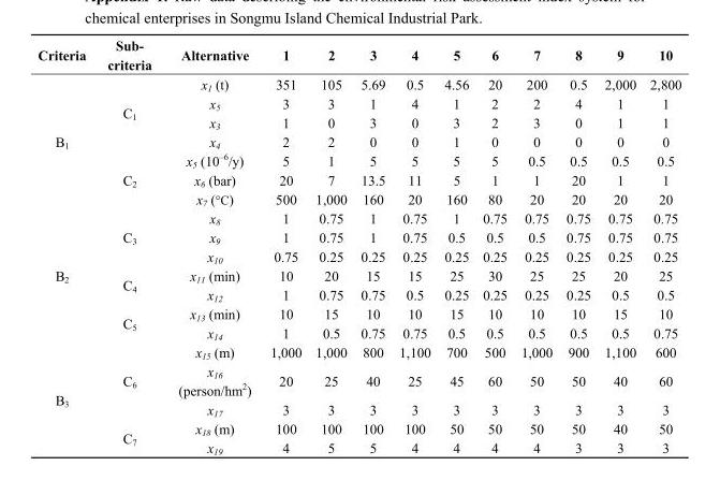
<table><thead><tr><td>Criteria</td><td>Sub- criteria</td><td>Alternative</td><td>1</td><td>2</td><td>3</td><td>4</td><td>5</td><td>6</td><td>7</td><td>8</td><td>9</td><td>10</td></tr></thead><tbody><tr><td rowspan="7">B<sub>1</sub></td><td rowspan="4">C<sub>1</sub></td><td>x<sub>1</sub> (t)</td><td>351</td><td>105</td><td>5.69</td><td>0.5</td><td>4.56</td><td>20</td><td>200</td><td>0.5</td><td>2,000</td><td>2,800</td></tr><tr><td>x<sub>5</sub></td><td>3</td><td>3</td><td>1</td><td>4</td><td>1</td><td>2</td><td>2</td><td>4</td><td>1</td><td>1</td></tr><tr><td>x<sub>3</sub></td><td>1</td><td>0</td><td>3</td><td>0</td><td>3</td><td>2</td><td>3</td><td>0</td><td>1</td><td>1</td></tr><tr><td>x<sub>4</sub></td><td>2</td><td>2</td><td>0</td><td>0</td><td>1</td><td>0</td><td>0</td><td>0</td><td>0</td><td>0</td></tr><tr><td rowspan="3">C<sub>2</sub></td><td>x<sub>5</sub> (10<sup>–6</sup>/y)</td><td>5</td><td>1</td><td>5</td><td>5</td><td>5</td><td>5</td><td>0.5</td><td>0.5</td><td>0.5</td><td>0.5</td></tr><tr><td>x<sub>6</sub> (bar)</td><td>20</td><td>7</td><td>13.5</td><td>11</td><td>5</td><td>1</td><td>1</td><td>20</td><td>1</td><td>1</td></tr><tr><td>x<sub>7</sub> (°C)</td><td>500</td><td>1,000</td><td>160</td><td>20</td><td>160</td><td>80</td><td>20</td><td>20</td><td>20</td><td>20</td></tr><tr><td rowspan="7">B<sub>2</sub></td><td rowspan="3">C<sub>3</sub></td><td>x<sub>8</sub></td><td>1</td><td>0.75</td><td>1</td><td>0.75</td><td>1</td><td>0.75</td><td>0.75</td><td>0.75</td><td>0.75</td><td>0.75</td></tr><tr><td>x<sub>9</sub></td><td>1</td><td>0.75</td><td>1</td><td>0.75</td><td>0.5</td><td>0.5</td><td>0.5</td><td>0.75</td><td>0.75</td><td>0.75</td></tr><tr><td>x<sub>10</sub></td><td>0.75</td><td>0.25</td><td>0.25</td><td>0.25</td><td>0.25</td><td>0.25</td><td>0.25</td><td>0.25</td><td>0.25</td><td>0.25</td></tr><tr><td rowspan="2">C<sub>4</sub></td><td>x<sub>11</sub> (min)</td><td>10</td><td>20</td><td>15</td><td>15</td><td>25</td><td>30</td><td>25</td><td>25</td><td>20</td><td>25</td></tr><tr><td>x<sub>12</sub></td><td>1</td><td>0.75</td><td>0.75</td><td>0.5</td><td>0.25</td><td>0.25</td><td>0.25</td><td>0.25</td><td>0.5</td><td>0.5</td></tr><tr><td rowspan="2">C<sub>5</sub></td><td>x<sub>13</sub> (min)</td><td>10</td><td>15</td><td>10</td><td>10</td><td>15</td><td>10</td><td>10</td><td>10</td><td>15</td><td>10</td></tr><tr><td>x<sub>14</sub></td><td>1</td><td>0.5</td><td>0.75</td><td>0.75</td><td>0.5</td><td>0.5</td><td>0.5</td><td>0.5</td><td>0.5</td><td>0.75</td></tr><tr><td rowspan="5">B<sub>3</sub></td><td rowspan="3">C<sub>6</sub></td><td>x<sub>15</sub> (m)</td><td>1,000</td><td>1,000</td><td>800</td><td>1,100</td><td>700</td><td>500</td><td>1,000</td><td>900</td><td>1,100</td><td>600</td></tr><tr><td>x<sub>16</sub> (person/hm<sup>2</sup>)</td><td>20</td><td>25</td><td>40</td><td>25</td><td>45</td><td>60</td><td>50</td><td>50</td><td>40</td><td>60</td></tr><tr><td>x<sub>17</sub></td><td>3</td><td>3</td><td>3</td><td>3</td><td>3</td><td>3</td><td>3</td><td>3</td><td>3</td><td>3</td></tr><tr><td rowspan="2">C<sub>7</sub></td><td>x<sub>18</sub> (m)</td><td>100</td><td>100</td><td>100</td><td>100</td><td>50</td><td>50</td><td>50</td><td>50</td><td>40</td><td>50</td></tr><tr><td>x<sub>19</sub></td><td>4</td><td>5</td><td>5</td><td>4</td><td>4</td><td>4</td><td>4</td><td>3</td><td>3</td><td>3</td></tr></tbody></table>